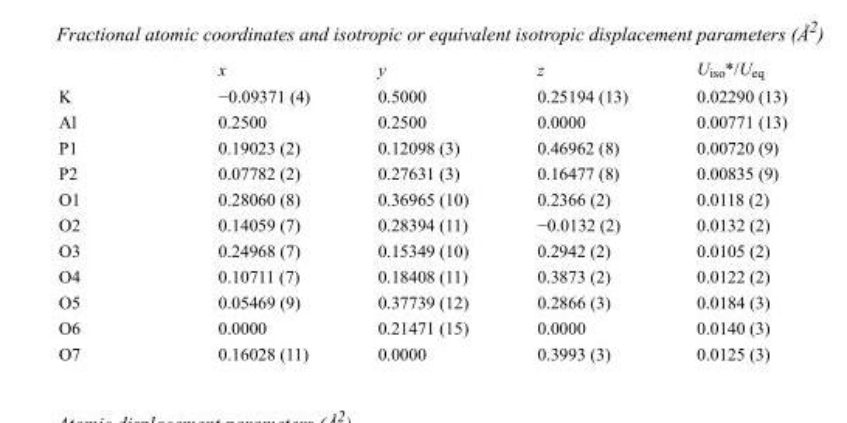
<table><thead><tr><td></td><td>x</td><td>y</td><td>z</td><td>U<sub>iso</sub>*/U<sub>eq</sub></td></tr></thead><tbody><tr><td>K</td><td>−0.09371 (4)</td><td>0.5000</td><td>0.25194 (13)</td><td>0.02290 (13)</td></tr><tr><td>Al</td><td>0.2500</td><td>0.2500</td><td>0.0000</td><td>0.00771 (13)</td></tr><tr><td>P1</td><td>0.19023 (2)</td><td>0.12098 (3)</td><td>0.46962 (8)</td><td>0.00720 (9)</td></tr><tr><td>P2</td><td>0.07782 (2)</td><td>0.27631 (3)</td><td>0.16477 (8)</td><td>0.00835 (9)</td></tr><tr><td>O1</td><td>0.28060 (8)</td><td>0.36965 (10)</td><td>0.2366 (2)</td><td>0.0118 (2)</td></tr><tr><td>O2</td><td>0.14059 (7)</td><td>0.28394 (11)</td><td>−0.0132 (2)</td><td>0.0132 (2)</td></tr><tr><td>O3</td><td>0.24968 (7)</td><td>0.15349 (10)</td><td>0.2942 (2)</td><td>0.0105 (2)</td></tr><tr><td>O4</td><td>0.10711 (7)</td><td>0.18408 (11)</td><td>0.3873 (2)</td><td>0.0122 (2)</td></tr><tr><td>O5</td><td>0.05469 (9)</td><td>0.37739 (12)</td><td>0.2866 (3)</td><td>0.0184 (3)</td></tr><tr><td>O6</td><td>0.0000</td><td>0.21471 (15)</td><td>0.0000</td><td>0.0140 (3)</td></tr><tr><td>O7</td><td>0.16028 (11)</td><td>0.0000</td><td>0.3993 (3)</td><td>0.0125 (3)</td></tr></tbody></table>